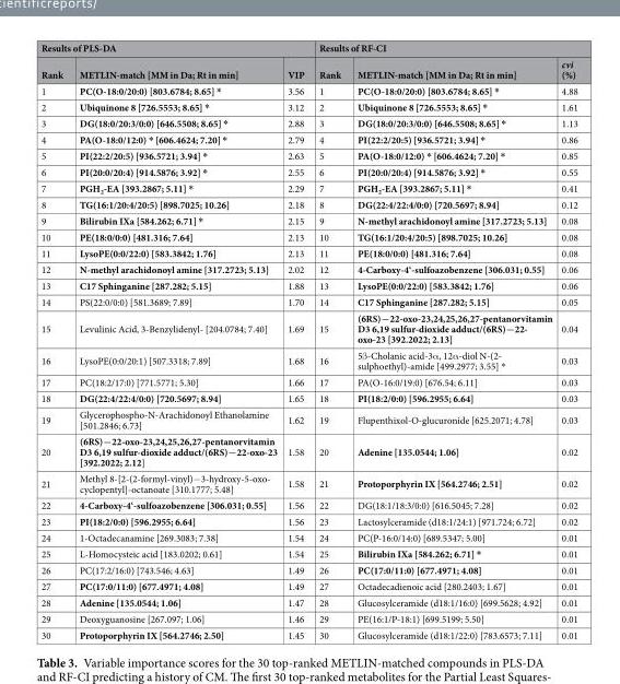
<table><thead><tr><td colspan="3">Results of PLS-DA</td><td colspan="3">Results of RF-CI</td></tr><tr><td>Rank</td><td>METLIN-match [MM in Da; Rt in min]</td><td>VIP</td><td>Rank</td><td>METLIN-match [MM in Da; Rt in min]</td><td>cvi (%)</td></tr></thead><tbody><tr><td>1</td><td>PC(O-18:0/20:0) [803.6784; 8.65] *</td><td>3.56</td><td>1</td><td>PC(O-18:0/20:0) [803.6784; 8.65] *</td><td>4.88</td></tr><tr><td>2</td><td>Ubiquinone 8 [726.5553; 8.65] *</td><td>3.12</td><td>2</td><td>Ubiquinone 8 [726.5553; 8.65] *</td><td>1.61</td></tr><tr><td>3</td><td>DG(18:0/20:3/0:0) [646.5508; 8.65] *</td><td>2.88</td><td>3</td><td>DG(18:0/20:3/0:0) [646.5508; 8.65] *</td><td>1.13</td></tr><tr><td>4</td><td>PA(O-18:0/12:0) * [606.4624; 7.20] *</td><td>2.79</td><td>4</td><td>PI(22:2/20:5) [936.5721; 3.94] *</td><td>0.86</td></tr><tr><td>5</td><td>PI(22:2/20:5) [936.5721; 3.94] *</td><td>2.63</td><td>5</td><td>PA(O-18:0/12:0) * [606.4624; 7.20] *</td><td>0.85</td></tr><tr><td>6</td><td>PI(20:0/20:4) [914.5876; 3.92] *</td><td>2.55</td><td>6</td><td>PI(20:0/20:4) [914.5876; 3.92] *</td><td>0.55</td></tr><tr><td>7</td><td>PGH<sub>2</sub>-EA [393.2867; 5.11] *</td><td>2.29</td><td>7</td><td>PGH<sub>2</sub>-EA [393.2867; 5.11] *</td><td>0.41</td></tr><tr><td>8</td><td>TG(16:1/20:4/20:5) [898.7025; 10.26]</td><td>2.18</td><td>8</td><td>DG(22:4/22:4/0:0) [720.5697; 8.94]</td><td>0.12</td></tr><tr><td>9</td><td>Bilirubin IXa [584.262; 6.71] *</td><td>2.15</td><td>9</td><td>N-methyl arachidonoyl amine [317.2723; 5.13]</td><td>0.08</td></tr><tr><td>10</td><td>PE(18:0/0:0) [481.316; 7.64]</td><td>2.13</td><td>10</td><td>TG(16:1/20:4/20:5) [898.7025; 10.26]</td><td>0.08</td></tr><tr><td>11</td><td>LysoPE(0:0/22:0) [583.3842; 1.76]</td><td>2.13</td><td>11</td><td>PE(18:0/0:0) [481.316; 7.64]</td><td>0.08</td></tr><tr><td>12</td><td>N-methyl arachidonoyl amine [317.2723; 5.13]</td><td>2.02</td><td>12</td><td>4-Carboxy-4‘-sulfoazobenzene [306.031; 0.55]</td><td>0.06</td></tr><tr><td>13</td><td>C17 Sphinganine [287.282; 5.15]</td><td>1.88</td><td>13</td><td>LysoPE(0:0/22:0) [583.3842; 1.76]</td><td>0.06</td></tr><tr><td>14</td><td>PS(22:0/0:0) [581.3689; 7.89]</td><td>1.70</td><td>14</td><td>C17 Sphinganine [287.282; 5.15]</td><td>0.05</td></tr><tr><td>15</td><td>Levulinic Acid, 3-Benzylidenyl- [204.0784; 7.40]</td><td>1.69</td><td>15</td><td>(6RS)−22-oxo-23,24,25,26,27-pentanorvitamin D3 6,19 sulfur-dioxide adduct/(6RS)−22- oxo-23 [392.2022; 2.13]</td><td>0.04</td></tr><tr><td>16</td><td>LysoPE(0:0/20:1) [507.3318; 7.89]</td><td>1.68</td><td>16</td><td>5β-Cholanic acid-3α, 12α-diol N-(2- sulphoethyl)-amide [499.2977; 3.55] *</td><td>0.03</td></tr><tr><td>17</td><td>PC(18:2/17:0) [771.5771; 5.30]</td><td>1.66</td><td>17</td><td>PA(O-16:0/19:0) [676.54; 6.11]</td><td>0.03</td></tr><tr><td>18</td><td>DG(22:4/22:4/0:0) [720.5697; 8.94]</td><td>1.65</td><td>18</td><td>PI(18:2/0:0) [596.2955; 6.64]</td><td>0.03</td></tr><tr><td>19</td><td>Glycerophospho-N-Arachidonoyl Ethanolamine [501.2846; 6.73]</td><td>1.62</td><td>19</td><td>Flupenthixol-O-glucuronide [625.2071; 4.78]</td><td>0.03</td></tr><tr><td>20</td><td>(6RS)−22-oxo-23,24,25,26,27-pentanorvitamin D3 6,19 sulfur-dioxide adduct/(6RS)−22-oxo-23 [392.2022; 2.12]</td><td>1.58</td><td>20</td><td>Adenine [135.0544; 1.06]</td><td>0.02</td></tr><tr><td>21</td><td>Methyl 8-[2-(2-formyl-vinyl)−3-hydroxy-5-oxo- cyclopentyl]-octanoate [310.1777; 5.48]</td><td>1.58</td><td>21</td><td>Protoporphyrin IX [564.2746; 2.51]</td><td>0.02</td></tr><tr><td>22</td><td>4-Carboxy-4‘-sulfoazobenzene [306.031; 0.55]</td><td>1.56</td><td>22</td><td>DG(18:1/18:3/0:0) [616.5045; 7.28]</td><td>0.02</td></tr><tr><td>23</td><td>PI(18:2/0:0) [596.2955; 6.64]</td><td>1.56</td><td>23</td><td>Lactosylceramide (d18:1/24:1) [971.724; 6.72]</td><td>0.02</td></tr><tr><td>24</td><td>1-Octadecanamine [269.3083; 7.38]</td><td>1.54</td><td>24</td><td>PC(P-16:0/14:0) [689.5347; 5.00]</td><td>0.01</td></tr><tr><td>25</td><td>L-Homocysteic acid [183.0202; 0.61]</td><td>1.54</td><td>25</td><td>Bilirubin IXa [584.262; 6.71] *</td><td>0.01</td></tr><tr><td>26</td><td>PC(17:2/16:0) [743.546; 4.63]</td><td>1.49</td><td>26</td><td>PC(17:0/11:0) [677.4971; 4.08]</td><td>0.01</td></tr><tr><td>27</td><td>PC(17:0/11:0) [677.4971; 4.08]</td><td>1.49</td><td>27</td><td>Octadecadienoic acid [280.2403; 1.67]</td><td>0.01</td></tr><tr><td>28</td><td>Adenine [135.0544; 1.06]</td><td>1.47</td><td>28</td><td>Glucosylceramide (d18:1/16:0) [699.5628; 4.92]</td><td>0.01</td></tr><tr><td>29</td><td>Deoxyguanosine [267.097; 1.06]</td><td>1.46</td><td>29</td><td>PE(16:1/P-18:1) [699.5199; 5.50]</td><td>0.01</td></tr><tr><td>30</td><td>Protoporphyrin IX [564.2746; 2.50]</td><td>1.45</td><td>30</td><td>Glucosylceramide (d18:1/22:0) [783.6573; 7.11]</td><td>0.01</td></tr></tbody></table>